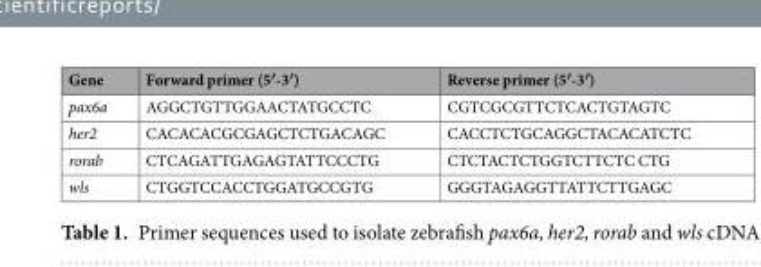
<table><thead><tr><td>Gene</td><td>Forward primer (5′-3′)</td><td>Reverse primer (5′-3′)</td></tr></thead><tbody><tr><td>pax6a</td><td>AGGCTGTTGGAACTATGCCTC</td><td>CGTCGCGTTCTCACTGTAGTC</td></tr><tr><td>her2</td><td>CACACACGCGAGCTCTGACAGC</td><td>CACCTCTGCAGGCTACACATCTC</td></tr><tr><td>rorab</td><td>CTCAGATTGAGAGTATTCCCTG</td><td>CTCTACTCTGGTCTTCTC CTG</td></tr><tr><td>wls</td><td>CTGGTCCACCTGGATGCCGTG</td><td>GGGTAGAGGTTATTCTTGAGC</td></tr></tbody></table>